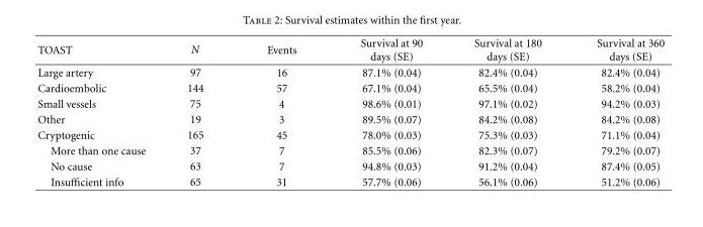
<table><thead><tr><td>TOAST</td><td>N</td><td>Events</td><td>Survival at 90 days (SE)</td><td>Survival at 180 days (SE)</td><td>Survival at 360 days (SE)</td></tr></thead><tbody><tr><td>Large artery</td><td>97</td><td>16</td><td>87.1% (0.04)</td><td>82.4% (0.04)</td><td>82.4% (0.04)</td></tr><tr><td>Cardioembolic</td><td>144</td><td>57</td><td>67.1% (0.04)</td><td>65.5% (0.04)</td><td>58.2% (0.04)</td></tr><tr><td>Small vessels</td><td>75</td><td>4</td><td>98.6% (0.01)</td><td>97.1% (0.02)</td><td>94.2% (0.03)</td></tr><tr><td>Other</td><td>19</td><td>3</td><td>89.5% (0.07)</td><td>84.2% (0.08)</td><td>84.2% (0.08)</td></tr><tr><td>Cryptogenic</td><td>165</td><td>45</td><td>78.0% (0.03)</td><td>75.3% (0.03)</td><td>71.1% (0.04)</td></tr><tr><td>More than one cause</td><td>37</td><td>7</td><td>85.5% (0.06)</td><td>82.3% (0.07)</td><td>79.2% (0.07)</td></tr><tr><td>No cause</td><td>63</td><td>7</td><td>94.8% (0.03)</td><td>91.2% (0.04)</td><td>87.4% (0.05)</td></tr><tr><td>Insufficient info</td><td>65</td><td>31</td><td>57.7% (0.06)</td><td>56.1% (0.06)</td><td>51.2% (0.06)</td></tr></tbody></table>